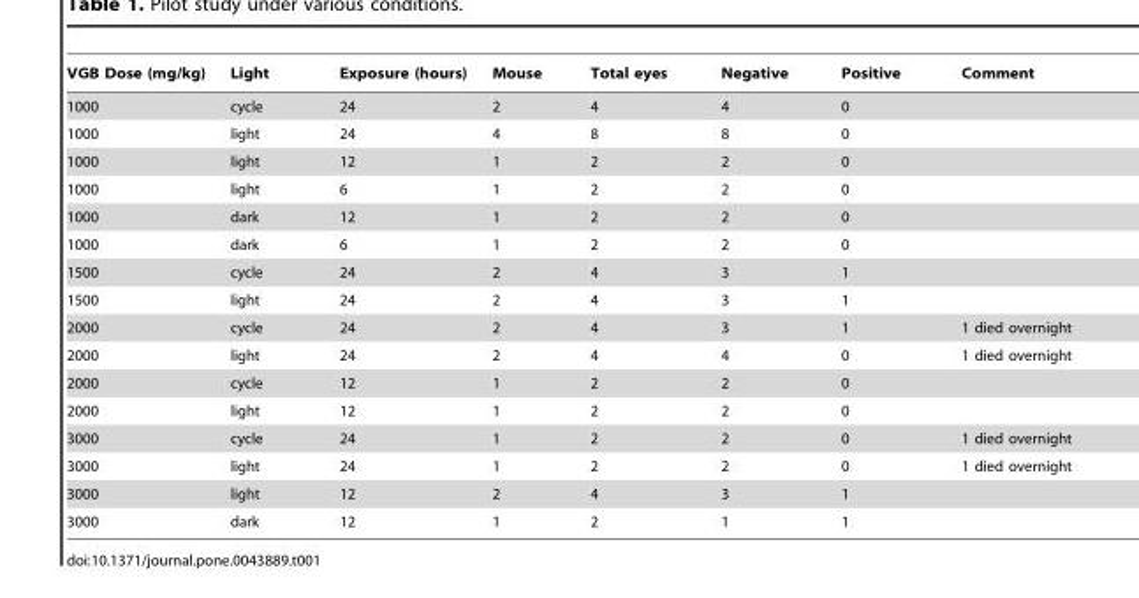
<table><thead><tr><td>VGB Dose (mg/kg)</td><td>Light</td><td>Exposure (hours)</td><td>Mouse</td><td>Total eyes</td><td>Negative</td><td>Positive</td><td>Comment</td></tr></thead><tbody><tr><td>1000</td><td>cycle</td><td>24</td><td>2</td><td>4</td><td>4</td><td>0</td><td></td></tr><tr><td>1000</td><td>light</td><td>24</td><td>4</td><td>8</td><td>8</td><td>0</td><td></td></tr><tr><td>1000</td><td>light</td><td>12</td><td>1</td><td>2</td><td>2</td><td>0</td><td></td></tr><tr><td>1000</td><td>light</td><td>6</td><td>1</td><td>2</td><td>2</td><td>0</td><td></td></tr><tr><td>1000</td><td>dark</td><td>12</td><td>1</td><td>2</td><td>2</td><td>0</td><td></td></tr><tr><td>1000</td><td>dark</td><td>6</td><td>1</td><td>2</td><td>2</td><td>0</td><td></td></tr><tr><td>1500</td><td>cycle</td><td>24</td><td>2</td><td>4</td><td>3</td><td>1</td><td></td></tr><tr><td>1500</td><td>light</td><td>24</td><td>2</td><td>4</td><td>3</td><td>1</td><td></td></tr><tr><td>2000</td><td>cycle</td><td>24</td><td>2</td><td>4</td><td>3</td><td>1</td><td>1 died overnight</td></tr><tr><td>2000</td><td>light</td><td>24</td><td>2</td><td>4</td><td>4</td><td>0</td><td>1 died overnight</td></tr><tr><td>2000</td><td>cycle</td><td>12</td><td>1</td><td>2</td><td>2</td><td>0</td><td></td></tr><tr><td>2000</td><td>light</td><td>12</td><td>1</td><td>2</td><td>2</td><td>0</td><td></td></tr><tr><td>3000</td><td>cycle</td><td>24</td><td>1</td><td>2</td><td>2</td><td>0</td><td>1 died overnight</td></tr><tr><td>3000</td><td>light</td><td>24</td><td>1</td><td>2</td><td>2</td><td>0</td><td>1 died overnight</td></tr><tr><td>3000</td><td>light</td><td>12</td><td>2</td><td>4</td><td>3</td><td>1</td><td></td></tr><tr><td>3000</td><td>dark</td><td>12</td><td>1</td><td>2</td><td>1</td><td>1</td><td></td></tr></tbody></table>